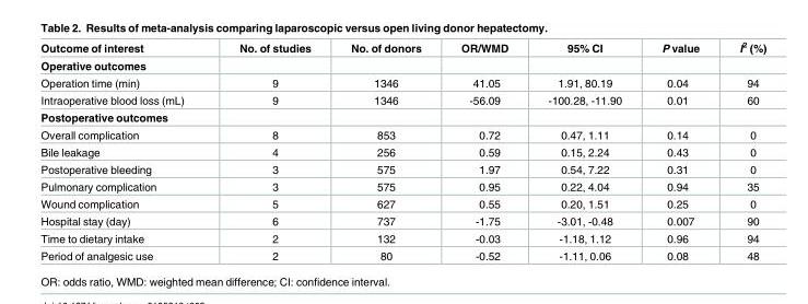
<table><thead><tr><td>Outcome of interest</td><td>No. of studies</td><td>No. of donors</td><td>OR/WMD</td><td>95% CI</td><td>P value</td><td>I<sup>2</sup> (%)</td></tr></thead><tbody><tr><td colspan="7">Operative outcomes</td></tr><tr><td>Operation time (min)</td><td>9</td><td>1346</td><td>41.05</td><td>1.91, 80.19</td><td>0.04</td><td>94</td></tr><tr><td>Intraoperative blood loss (mL)</td><td>9</td><td>1346</td><td>-56.09</td><td>-100.28, -11.90</td><td>0.01</td><td>60</td></tr><tr><td colspan="7">Postoperative outcomes</td></tr><tr><td>Overall complication</td><td>8</td><td>853</td><td>0.72</td><td>0.47, 1.11</td><td>0.14</td><td>0</td></tr><tr><td>Bile leakage</td><td>4</td><td>256</td><td>0.59</td><td>0.15, 2.24</td><td>0.43</td><td>0</td></tr><tr><td>Postoperative bleeding</td><td>3</td><td>575</td><td>1.97</td><td>0.54, 7.22</td><td>0.31</td><td>0</td></tr><tr><td>Pulmonary complication</td><td>3</td><td>575</td><td>0.95</td><td>0.22, 4.04</td><td>0.94</td><td>35</td></tr><tr><td>Wound complication</td><td>5</td><td>627</td><td>0.55</td><td>0.20, 1.51</td><td>0.25</td><td>0</td></tr><tr><td>Hospital stay (day)</td><td>6</td><td>737</td><td>-1.75</td><td>-3.01, -0.48</td><td>0.007</td><td>90</td></tr><tr><td>Time to dietary intake</td><td>2</td><td>132</td><td>-0.03</td><td>-1.18, 1.12</td><td>0.96</td><td>94</td></tr><tr><td>Period of analgesic use</td><td>2</td><td>80</td><td>-0.52</td><td>-1.11, 0.06</td><td>0.08</td><td>48</td></tr></tbody></table>